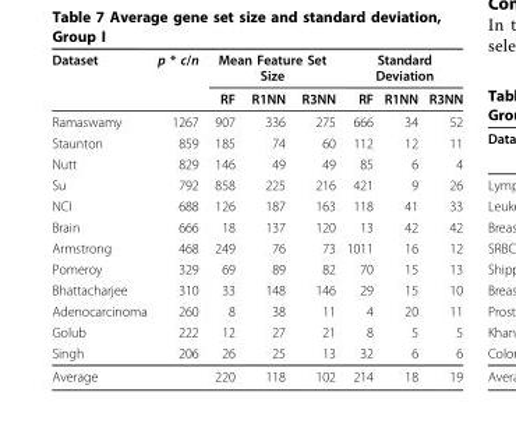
<table><thead><tr><td rowspan="2">Dataset</td><td rowspan="2">p * c/n</td><td colspan="3">Mean Feature Set Size</td><td colspan="3">Standard Deviation</td></tr><tr><td>RF</td><td>R1NN</td><td>R3NN</td><td>RF</td><td>R1NN</td><td>R3NN</td></tr></thead><tbody><tr><td>Ramaswamy</td><td>1267</td><td>907</td><td>336</td><td>275</td><td>666</td><td>34</td><td>52</td></tr><tr><td>Staunton</td><td>859</td><td>185</td><td>74</td><td>60</td><td>112</td><td>12</td><td>11</td></tr><tr><td>Nutt</td><td>829</td><td>146</td><td>49</td><td>49</td><td>85</td><td>6</td><td>4</td></tr><tr><td>Su</td><td>792</td><td>858</td><td>225</td><td>216</td><td>421</td><td>9</td><td>26</td></tr><tr><td>NCI</td><td>688</td><td>126</td><td>187</td><td>163</td><td>118</td><td>41</td><td>33</td></tr><tr><td>Brain</td><td>666</td><td>18</td><td>137</td><td>120</td><td>13</td><td>42</td><td>42</td></tr><tr><td>Armstrong</td><td>468</td><td>249</td><td>76</td><td>73</td><td>1011</td><td>16</td><td>12</td></tr><tr><td>Pomeroy</td><td>329</td><td>69</td><td>89</td><td>82</td><td>70</td><td>15</td><td>13</td></tr><tr><td>Bhattacharjee</td><td>310</td><td>33</td><td>148</td><td>146</td><td>29</td><td>15</td><td>10</td></tr><tr><td>Adenocarcinoma</td><td>260</td><td>8</td><td>38</td><td>11</td><td>4</td><td>20</td><td>11</td></tr><tr><td>Golub</td><td>222</td><td>12</td><td>27</td><td>21</td><td>8</td><td>5</td><td>5</td></tr><tr><td>Singh</td><td>206</td><td>26</td><td>25</td><td>13</td><td>32</td><td>6</td><td>6</td></tr><tr><td>Average</td><td></td><td>220</td><td>118</td><td>102</td><td>214</td><td>18</td><td>19</td></tr></tbody></table>